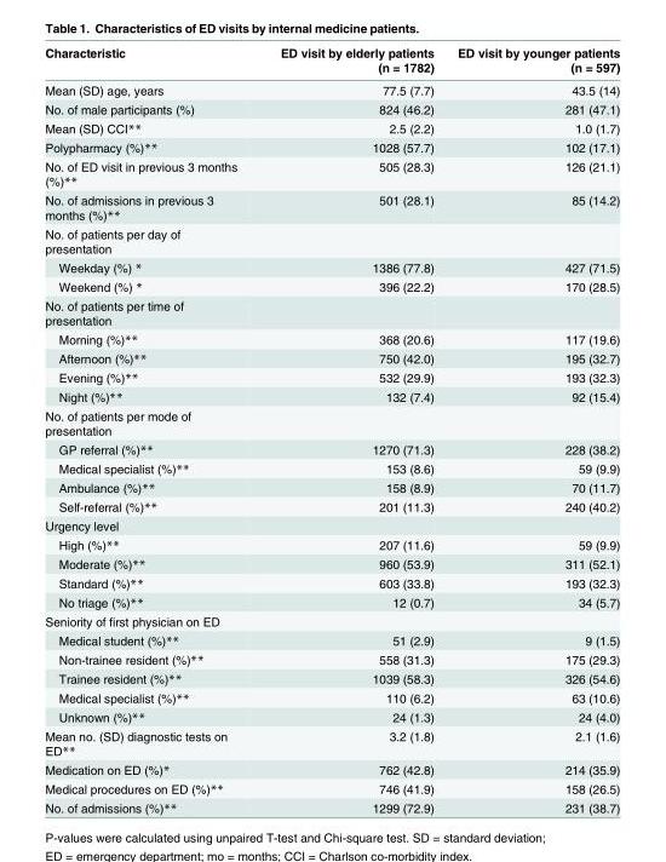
<table><thead><tr><td>Characteristic</td><td>ED visit by elderly patients (n = 1782)</td><td>ED visit by younger patients (n = 597)</td></tr></thead><tbody><tr><td>Mean (SD) age, years</td><td>77.5 (7.7)</td><td>43.5 (14)</td></tr><tr><td>No. of male participants (%)</td><td>824 (46.2)</td><td>281 (47.1)</td></tr><tr><td>Mean (SD) CCI**</td><td>2.5 (2.2)</td><td>1.0 (1.7)</td></tr><tr><td>Polypharmacy (%)**</td><td>1028 (57.7)</td><td>102 (17.1)</td></tr><tr><td>No. of ED visit in previous 3 months (%)**</td><td>505 (28.3)</td><td>126 (21.1)</td></tr><tr><td>No. of admissions in previous 3 months (%)**</td><td>501 (28.1)</td><td>85 (14.2)</td></tr><tr><td colspan="3">No. of patients per day of presentation</td></tr><tr><td>Weekday (%) *</td><td>1386 (77.8)</td><td>427 (71.5)</td></tr><tr><td>Weekend (%) *</td><td>396 (22.2)</td><td>170 (28.5)</td></tr><tr><td colspan="3">No. of patients per time of presentation</td></tr><tr><td>Morning (%)**</td><td>368 (20.6)</td><td>117 (19.6)</td></tr><tr><td>Afternoon (%)**</td><td>750 (42.0)</td><td>195 (32.7)</td></tr><tr><td>Evening (%)**</td><td>532 (29.9)</td><td>193 (32.3)</td></tr><tr><td>Night (%)**</td><td>132 (7.4)</td><td>92 (15.4)</td></tr><tr><td colspan="3">No. of patients per mode of presentation</td></tr><tr><td>GP referral (%)**</td><td>1270 (71.3)</td><td>228 (38.2)</td></tr><tr><td>Medical specialist (%)**</td><td>153 (8.6)</td><td>59 (9.9)</td></tr><tr><td>Ambulance (%)**</td><td>158 (8.9)</td><td>70 (11.7)</td></tr><tr><td>Self-referral (%)**</td><td>201 (11.3)</td><td>240 (40.2)</td></tr><tr><td colspan="3">Urgency level</td></tr><tr><td>High (%)**</td><td>207 (11.6)</td><td>59 (9.9)</td></tr><tr><td>Moderate (%)**</td><td>960 (53.9)</td><td>311 (52.1)</td></tr><tr><td>Standard (%)**</td><td>603 (33.8)</td><td>193 (32.3)</td></tr><tr><td>No triage (%)**</td><td>12 (0.7)</td><td>34 (5.7)</td></tr><tr><td colspan="3">Seniority of first physician on ED</td></tr><tr><td>Medical student (%)**</td><td>51 (2.9)</td><td>9 (1.5)</td></tr><tr><td>Non-trainee resident (%)**</td><td>558 (31.3)</td><td>175 (29.3)</td></tr><tr><td>Trainee resident (%)**</td><td>1039 (58.3)</td><td>326 (54.6)</td></tr><tr><td>Medical specialist (%)**</td><td>110 (6.2)</td><td>63 (10.6)</td></tr><tr><td>Unknown (%)**</td><td>24 (1.3)</td><td>24 (4.0)</td></tr><tr><td>Mean no. (SD) diagnostic tests on ED**</td><td>3.2 (1.8)</td><td>2.1 (1.6)</td></tr><tr><td>Medication on ED (%)*</td><td>762 (42.8)</td><td>214 (35.9)</td></tr><tr><td>Medical procedures on ED (%)**</td><td>746 (41.9)</td><td>158 (26.5)</td></tr><tr><td>No. of admissions (%)**</td><td>1299 (72.9)</td><td>231 (38.7)</td></tr></tbody></table>